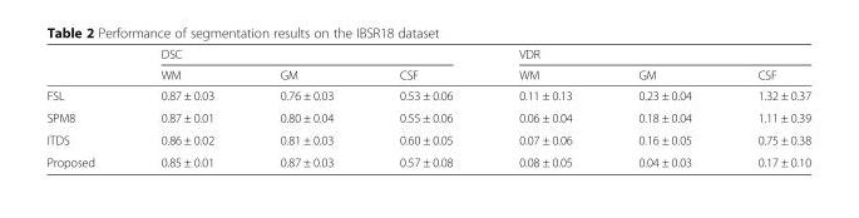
<table><thead><tr><td rowspan="2"></td><td colspan="3">DSC</td><td colspan="3">VDR</td></tr><tr><td>WM</td><td>GM</td><td>CSF</td><td>WM</td><td>GM</td><td>CSF</td></tr></thead><tbody><tr><td>FSL</td><td>0.87 ± 0.03</td><td>0.76 ± 0.03</td><td>0.53 ± 0.06</td><td>0.11 ± 0.13</td><td>0.23 ± 0.04</td><td>1.32 ± 0.37</td></tr><tr><td>SPM8</td><td>0.87 ± 0.01</td><td>0.80 ± 0.04</td><td>0.55 ± 0.06</td><td>0.06 ± 0.04</td><td>0.18 ± 0.04</td><td>1.11 ± 0.39</td></tr><tr><td>ITDS</td><td>0.86 ± 0.02</td><td>0.81 ± 0.03</td><td>0.60 ± 0.05</td><td>0.07 ± 0.06</td><td>0.16 ± 0.05</td><td>0.75 ± 0.38</td></tr><tr><td>Proposed</td><td>0.85 ± 0.01</td><td>0.87 ± 0.03</td><td>0.57 ± 0.08</td><td>0.08 ± 0.05</td><td>0.04 ± 0.03</td><td>0.17 ± 0.10</td></tr></tbody></table>